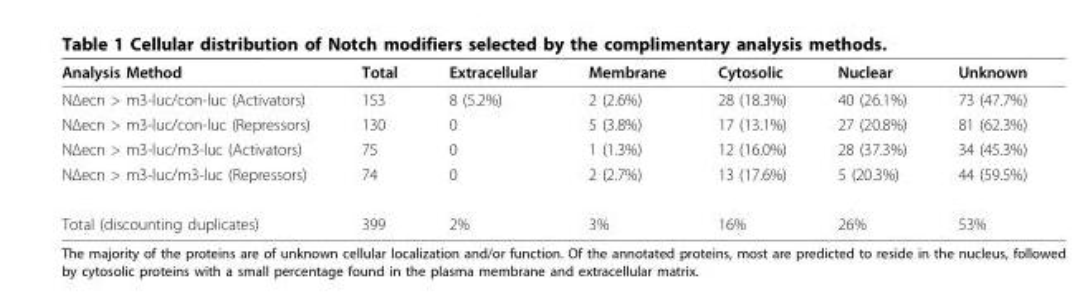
<table><thead><tr><td>Analysis Method</td><td>Total</td><td>Extracellular</td><td>Membrane</td><td>Cytosolic</td><td>Nuclear</td><td>Unknown</td></tr></thead><tbody><tr><td>NΔecn &gt; m3-luc/con-luc (Activators)</td><td>153</td><td>8 (5.2%)</td><td>2 (2.6%)</td><td>28 (18.3%)</td><td>40 (26.1%)</td><td>73 (47.7%)</td></tr><tr><td>NΔecn &gt; m3-luc/con-luc (Repressors)</td><td>130</td><td>0</td><td>5 (3.8%)</td><td>17 (13.1%)</td><td>27 (20.8%)</td><td>81 (62.3%)</td></tr><tr><td>NΔecn &gt; m3-luc/m3-luc (Activators)</td><td>75</td><td>0</td><td>1 (1.3%)</td><td>12 (16.0%)</td><td>28 (37.3%)</td><td>34 (45.3%)</td></tr><tr><td>NΔecn &gt; m3-luc/m3-luc (Repressors)</td><td>74</td><td>0</td><td>2 (2.7%)</td><td>13 (17.6%)</td><td>5 (20.3%)</td><td>44 (59.5%)</td></tr><tr><td>Total (discounting duplicates)</td><td>399</td><td>2%</td><td>3%</td><td>16%</td><td>26%</td><td>53%</td></tr></tbody></table>